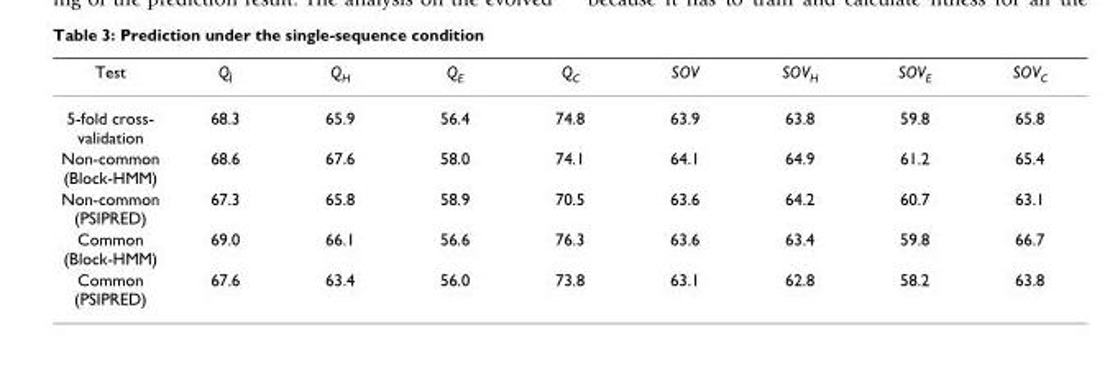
<table><thead><tr><td>Test</td><td>Q<sub>Ì</sub></td><td>Q<sub>H</sub></td><td>Q<sub>E</sub></td><td>Q<sub>C</sub></td><td>SOV</td><td>SOV<sub>H</sub></td><td>SOV<sub>E</sub></td><td>SOV<sub>C</sub></td></tr></thead><tbody><tr><td>5-fold cross- validation</td><td>68.3</td><td>65.9</td><td>56.4</td><td>74.8</td><td>63.9</td><td>63.8</td><td>59.8</td><td>65.8</td></tr><tr><td>Non-common (Block-HMM)</td><td>68.6</td><td>67.6</td><td>58.0</td><td>74.1</td><td>64.1</td><td>64.9</td><td>61.2</td><td>65.4</td></tr><tr><td>Non-common (PSIPRED)</td><td>67.3</td><td>65.8</td><td>58.9</td><td>70.5</td><td>63.6</td><td>64.2</td><td>60.7</td><td>63.1</td></tr><tr><td>Common (Block-HMM)</td><td>69.0</td><td>66.1</td><td>56.6</td><td>76.3</td><td>63.6</td><td>63.4</td><td>59.8</td><td>66.7</td></tr><tr><td>Common (PSIPRED)</td><td>67.6</td><td>63.4</td><td>56.0</td><td>73.8</td><td>63.1</td><td>62.8</td><td>58.2</td><td>63.8</td></tr></tbody></table>